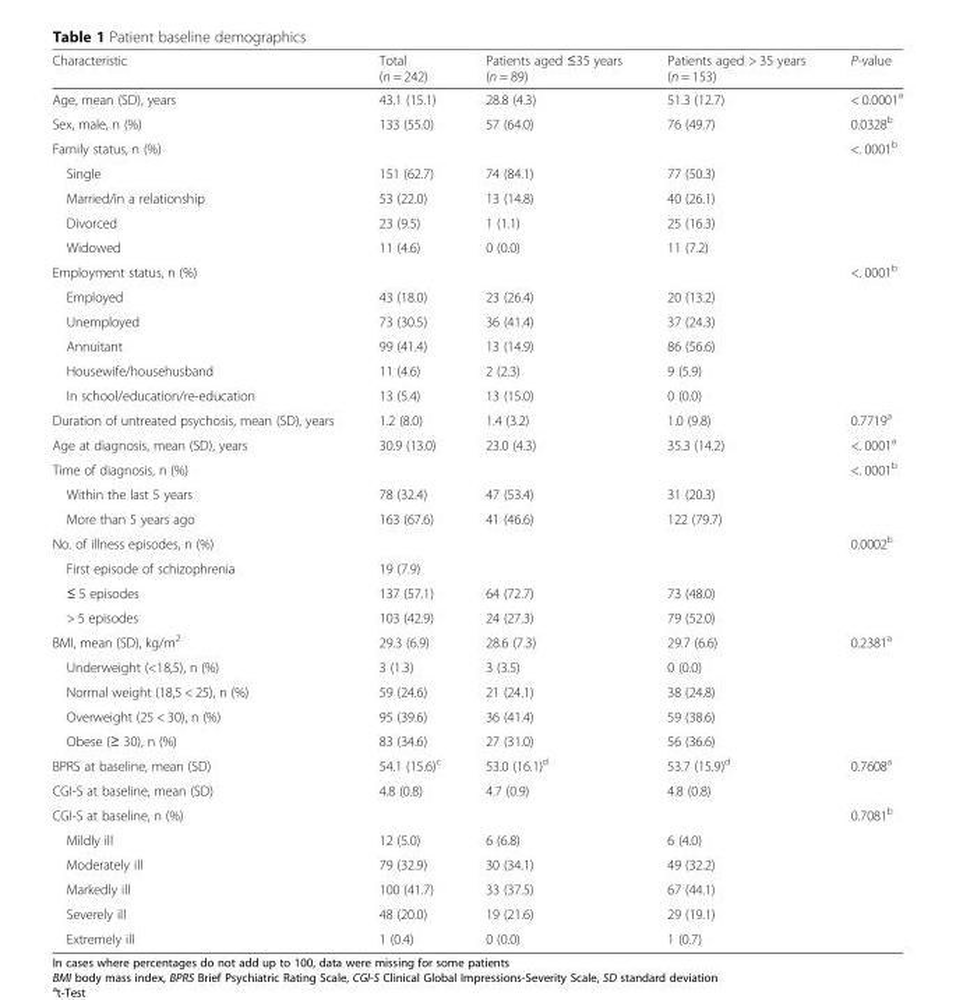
<table><thead><tr><td>Characteristic</td><td>Total (n = 242)</td><td>Patients aged ≤35 years (n = 89)</td><td>Patients aged &gt; 35 years (n = 153)</td><td>P-value</td></tr></thead><tbody><tr><td>Age, mean (SD), years</td><td>43.1 (15.1)</td><td>28.8 (4.3)</td><td>51.3 (12.7)</td><td>&lt; 0.0001<sup>a</sup></td></tr><tr><td>Sex, male, n (%)</td><td>133 (55.0)</td><td>57 (64.0)</td><td>76 (49.7)</td><td>0.0328<sup>b</sup></td></tr><tr><td>Family status, n (%)</td><td></td><td></td><td></td><td>&lt;. 0001<sup>b</sup></td></tr><tr><td>Single</td><td>151 (62.7)</td><td>74 (84.1)</td><td>77 (50.3)</td><td></td></tr><tr><td>Married/in a relationship</td><td>53 (22.0)</td><td>13 (14.8)</td><td>40 (26.1)</td><td></td></tr><tr><td>Divorced</td><td>23 (9.5)</td><td>1 (1.1)</td><td>25 (16.3)</td><td></td></tr><tr><td>Widowed</td><td>11 (4.6)</td><td>0 (0.0)</td><td>11 (7.2)</td><td></td></tr><tr><td>Employment status, n (%)</td><td></td><td></td><td></td><td>&lt;. 0001<sup>b</sup></td></tr><tr><td>Employed</td><td>43 (18.0)</td><td>23 (26.4)</td><td>20 (13.2)</td><td></td></tr><tr><td>Unemployed</td><td>73 (30.5)</td><td>36 (41.4)</td><td>37 (24.3)</td><td></td></tr><tr><td>Annuitant</td><td>99 (41.4)</td><td>13 (14.9)</td><td>86 (56.6)</td><td></td></tr><tr><td>Housewife/househusband</td><td>11 (4.6)</td><td>2 (2.3)</td><td>9 (5.9)</td><td></td></tr><tr><td>In school/education/re-education</td><td>13 (5.4)</td><td>13 (15.0)</td><td>0 (0.0)</td><td></td></tr><tr><td>Duration of untreated psychosis, mean (SD), years</td><td>1.2 (8.0)</td><td>1.4 (3.2)</td><td>1.0 (9.8)</td><td>0.7719<sup>a</sup></td></tr><tr><td>Age at diagnosis, mean (SD), years</td><td>30.9 (13.0)</td><td>23.0 (4.3)</td><td>35.3 (14.2)</td><td>&lt;. 0001<sup>a</sup></td></tr><tr><td>Time of diagnosis, n (%)</td><td></td><td></td><td></td><td>&lt;. 0001<sup>b</sup></td></tr><tr><td>Within the last 5 years</td><td>78 (32.4)</td><td>47 (53.4)</td><td>31 (20.3)</td><td></td></tr><tr><td>More than 5 years ago</td><td>163 (67.6)</td><td>41 (46.6)</td><td>122 (79.7)</td><td></td></tr><tr><td>No. of illness episodes, n (%)</td><td></td><td></td><td></td><td>0.0002<sup>b</sup></td></tr><tr><td>First episode of schizophrenia</td><td>19 (7.9)</td><td></td><td></td><td></td></tr><tr><td>≤ 5 episodes</td><td>137 (57.1)</td><td>64 (72.7)</td><td>73 (48.0)</td><td></td></tr><tr><td>&gt; 5 episodes</td><td>103 (42.9)</td><td>24 (27.3)</td><td>79 (52.0)</td><td></td></tr><tr><td>BMI, mean (SD), kg/m<sup>2</sup></td><td>29.3 (6.9)</td><td>28.6 (7.3)</td><td>29.7 (6.6)</td><td>0.2381<sup>a</sup></td></tr><tr><td>Underweight (&lt;18,5), n (%)</td><td>3 (1.3)</td><td>3 (3.5)</td><td>0 (0.0)</td><td></td></tr><tr><td>Normal weight (18,5 &lt; 25), n (%)</td><td>59 (24.6)</td><td>21 (24.1)</td><td>38 (24.8)</td><td></td></tr><tr><td>Overweight (25 &lt; 30), n (%)</td><td>95 (39.6)</td><td>36 (41.4)</td><td>59 (38.6)</td><td></td></tr><tr><td>Obese (≥ 30), n (%)</td><td>83 (34.6)</td><td>27 (31.0)</td><td>56 (36.6)</td><td></td></tr><tr><td>BPRS at baseline, mean (SD)</td><td>54.1 (15.6)<sup>c</sup></td><td>53.0 (16.1)<sup>d</sup></td><td>53.7 (15.9)<sup>d</sup></td><td>0.7608<sup>a</sup></td></tr><tr><td>CGI-S at baseline, mean (SD)</td><td>4.8 (0.8)</td><td>4.7 (0.9)</td><td>4.8 (0.8)</td><td></td></tr><tr><td>CGI-S at baseline, n (%)</td><td></td><td></td><td></td><td>0.7081<sup>b</sup></td></tr><tr><td>Mildly ill</td><td>12 (5.0)</td><td>6 (6.8)</td><td>6 (4.0)</td><td></td></tr><tr><td>Moderately ill</td><td>79 (32.9)</td><td>30 (34.1)</td><td>49 (32.2)</td><td></td></tr><tr><td>Markedly ill</td><td>100 (41.7)</td><td>33 (37.5)</td><td>67 (44.1)</td><td></td></tr><tr><td>Severely ill</td><td>48 (20.0)</td><td>19 (21.6)</td><td>29 (19.1)</td><td></td></tr><tr><td>Extremely ill</td><td>1 (0.4)</td><td>0 (0.0)</td><td>1 (0.7)</td><td></td></tr></tbody></table>